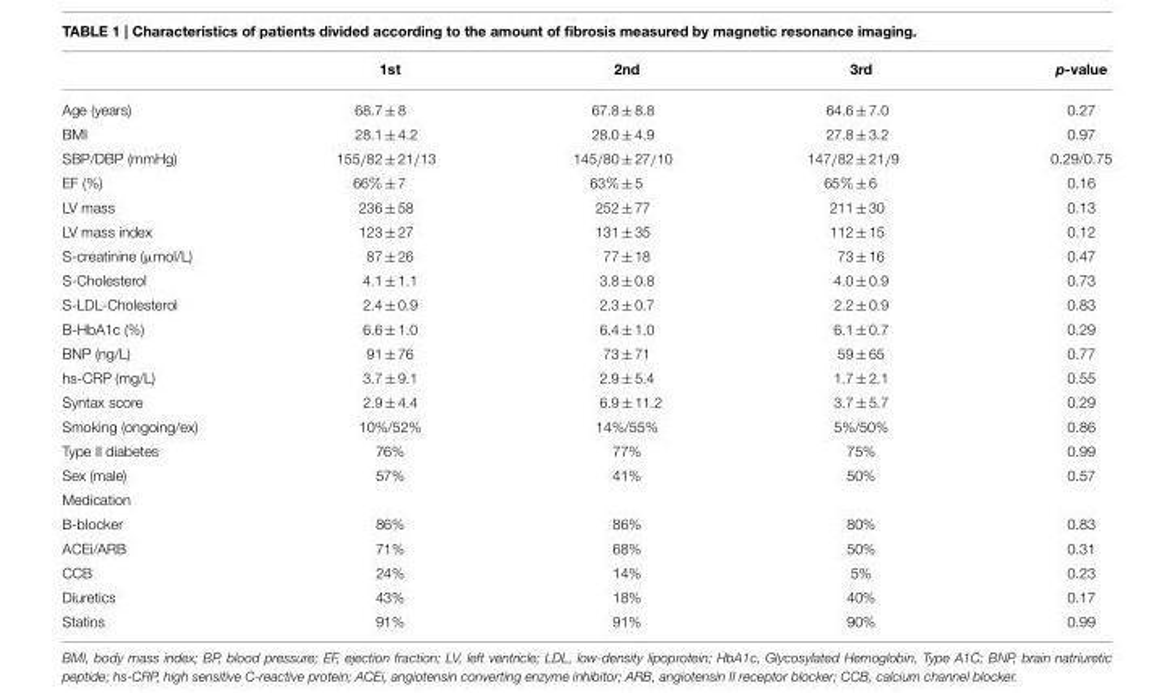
<table><thead><tr><td></td><td>1st</td><td>2nd</td><td>3rd</td><td>p-value</td></tr></thead><tbody><tr><td>Age (years)</td><td>68.7 ± 8</td><td>67.8 ± 8.8</td><td>64.6 ± 7.0</td><td>0.27</td></tr><tr><td>BMI</td><td>28.1 ± 4.2</td><td>28.0 ± 4.9</td><td>27.8 ± 3.2</td><td>0.97</td></tr><tr><td>SBP/DBP (mmHg)</td><td>155/82 ± 21/13</td><td>145/80 ± 27/10</td><td>147/82 ± 21/9</td><td>0.29/0.75</td></tr><tr><td>EF (%)</td><td>66% ± 7</td><td>63% ± 5</td><td>65% ± 6</td><td>0.16</td></tr><tr><td>LV mass</td><td>236 ± 58</td><td>252 ± 77</td><td>211 ± 30</td><td>0.13</td></tr><tr><td>LV mass index</td><td>123 ± 27</td><td>131 ± 35</td><td>112 ± 15</td><td>0.12</td></tr><tr><td>S-creatinine (µmol/L)</td><td>87 ± 26</td><td>77 ± 18</td><td>73 ± 16</td><td>0.47</td></tr><tr><td>S-Cholesterol</td><td>4.1 ± 1.1</td><td>3.8 ± 0.8</td><td>4.0 ± 0.9</td><td>0.73</td></tr><tr><td>S-LDL-Cholesterol</td><td>2.4 ± 0.9</td><td>2.3 ± 0.7</td><td>2.2 ± 0.9</td><td>0.83</td></tr><tr><td>B-HbA1c (%)</td><td>6.6 ± 1.0</td><td>6.4 ± 1.0</td><td>6.1 ± 0.7</td><td>0.29</td></tr><tr><td>BNP (ng/L)</td><td>91 ± 76</td><td>73 ± 71</td><td>59 ± 65</td><td>0.77</td></tr><tr><td>hs-CRP (mg/L)</td><td>3.7 ± 9.1</td><td>2.9 ± 5.4</td><td>1.7 ± 2.1</td><td>0.55</td></tr><tr><td>Syntax score</td><td>2.9 ± 4.4</td><td>6.9 ± 11.2</td><td>3.7 ± 5.7</td><td>0.29</td></tr><tr><td>Smoking (ongoing/ex)</td><td>10%/52%</td><td>14%/55%</td><td>5%/50%</td><td>0.86</td></tr><tr><td>Type II diabetes</td><td>76%</td><td>77%</td><td>75%</td><td>0.99</td></tr><tr><td>Sex (male)</td><td>57%</td><td>41%</td><td>50%</td><td>0.57</td></tr><tr><td colspan="5">Medication</td></tr><tr><td>B-blocker</td><td>86%</td><td>86%</td><td>80%</td><td>0.83</td></tr><tr><td>ACEi/ARB</td><td>71%</td><td>68%</td><td>50%</td><td>0.31</td></tr><tr><td>CCB</td><td>24%</td><td>14%</td><td>5%</td><td>0.23</td></tr><tr><td>Diuretics</td><td>43%</td><td>18%</td><td>40%</td><td>0.17</td></tr><tr><td>Statins</td><td>91%</td><td>91%</td><td>90%</td><td>0.99</td></tr></tbody></table>